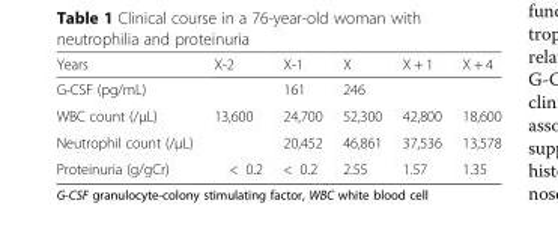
<table><thead><tr><td>Years</td><td>X-2</td><td>X-1</td><td>X</td><td>X + 1</td><td>X + 4</td></tr></thead><tbody><tr><td>G-CSF (pg/mL)</td><td></td><td>161</td><td>246</td><td></td><td></td></tr><tr><td>WBC count (/μL)</td><td>13,600</td><td>24,700</td><td>52,300</td><td>42,800</td><td>18,600</td></tr><tr><td>Neutrophil count (/μL)</td><td></td><td>20,452</td><td>46,861</td><td>37,536</td><td>13,578</td></tr><tr><td>Proteinuria (g/gCr)</td><td>&lt; 0.2</td><td>&lt; 0.2</td><td>2.55</td><td>1.57</td><td>1.35</td></tr></tbody></table>